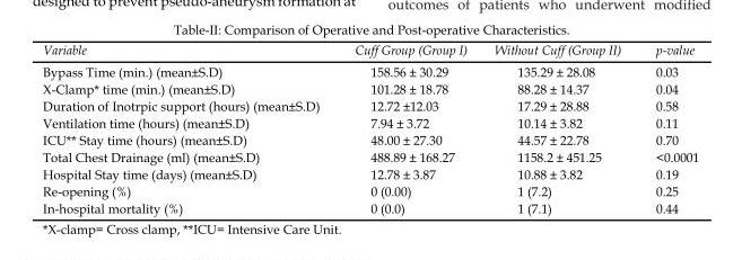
<table><thead><tr><td>Variable</td><td>Cuff Group (Group I)</td><td>Without Cuff (Group II)</td><td>p-value</td></tr></thead><tbody><tr><td>Bypass Time (min.) (mean±S.D)</td><td>158.56 ± 30.29</td><td>135.29 ± 28.08</td><td>0.03</td></tr><tr><td>X-Clamp* time (min.) (mean±S.D)</td><td>101.28 ± 18.78</td><td>88.28 ± 14.37</td><td>0.04</td></tr><tr><td>Duration of Inotrpic support (hours) (mean±S.D)</td><td>12.72 ±12.03</td><td>17.29 ± 28.88</td><td>0.58</td></tr><tr><td>Ventilation time (hours) (mean±S.D)</td><td>7.94 ± 3.72</td><td>10.14 ± 3.82</td><td>0.11</td></tr><tr><td>ICU** Stay time (hours) (mean±S.D)</td><td>48.00 ± 27.30</td><td>44.57 ± 22.78</td><td>0.70</td></tr><tr><td>Total Chest Drainage (ml) (mean±S.D)</td><td>488.89 ± 168.27</td><td>1158.2 ± 451.25</td><td>&lt;0.0001</td></tr><tr><td>Hospital Stay time (days) (mean±S.D)</td><td>12.78 ± 3.87</td><td>10.88 ± 3.82</td><td>0.19</td></tr><tr><td>Re-opening (%)</td><td>0 (0.00)</td><td>1 (7.2)</td><td>0.25</td></tr><tr><td>In-hospital mortality (%)</td><td>0 (0.0)</td><td>1 (7.1)</td><td>0.44</td></tr></tbody></table>